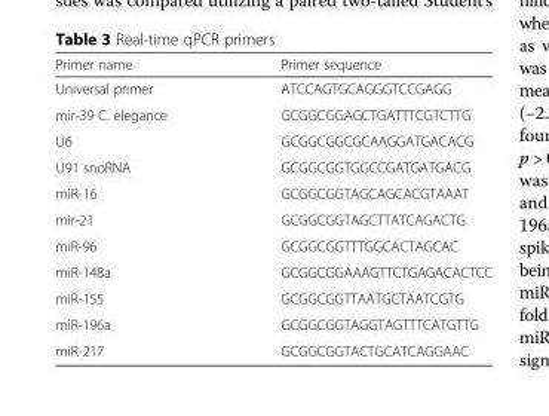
<table><thead><tr><td>Primer name</td><td>Primer sequence</td></tr></thead><tbody><tr><td>Universal primer</td><td>ATCCAGTGCAGGGTCCGAGG</td></tr><tr><td>mir-39 C. elegance</td><td>GCGGCGGAGCTGATTTCGTCTTG</td></tr><tr><td>U6</td><td>GCGGCGGCGCAAGGATGACACG</td></tr><tr><td>U91 snoRNA</td><td>GCGGCGGTGGCCGATGATGACG</td></tr><tr><td>miR-16</td><td>GCGGCGGTAGCAGCACGTAAAT</td></tr><tr><td>mir-21</td><td>GCGGCGGTAGCTTATCAGACTG</td></tr><tr><td>miR-96</td><td>GCGGCGGTTTGGCACTAGCAC</td></tr><tr><td>miR-148a</td><td>GCGGCGGAAAGTTCTGAGACACTCC</td></tr><tr><td>miR-155</td><td>GCGGCGGTTAATGCTAATCGTG</td></tr><tr><td>miR-196a</td><td>GCGGCGGTAGGTAGTTTCATGTTG</td></tr><tr><td>miR-217</td><td>GCGGCGGTACTGCATCAGGAAC</td></tr></tbody></table>